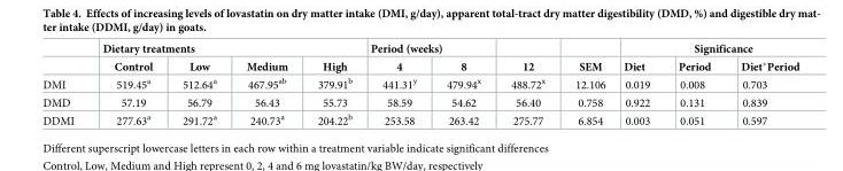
<table><thead><tr><td rowspan="2"></td><td colspan="4">Dietary treatments</td><td colspan="2">Period (weeks)</td><td rowspan="2">12</td><td rowspan="2">SEM</td><td colspan="3">Significance</td></tr><tr><td>Control</td><td>Low</td><td>Medium</td><td>High</td><td>4</td><td>8</td><td>Diet</td><td>Period</td><td>Diet*Period</td></tr></thead><tbody><tr><td>DMI</td><td>519.45<sup>a</sup></td><td>512.64<sup>a</sup></td><td>467.95<sup>ab</sup></td><td>379.91<sup>b</sup></td><td>441.31<sup>y</sup></td><td>479.94<sup>x</sup></td><td>488.72<sup>x</sup></td><td>12.106</td><td>0.019</td><td>0.008</td><td>0.703</td></tr><tr><td>DMD</td><td>57.19</td><td>56.79</td><td>56.43</td><td>55.73</td><td>58.59</td><td>54.62</td><td>56.40</td><td>0.758</td><td>0.922</td><td>0.131</td><td>0.839</td></tr><tr><td>DDMI</td><td>277.63<sup>a</sup></td><td>291.72<sup>a</sup></td><td>240.73<sup>a</sup></td><td>204.22<sup>b</sup></td><td>253.58</td><td>263.42</td><td>275.77</td><td>6.854</td><td>0.003</td><td>0.051</td><td>0.597</td></tr></tbody></table>